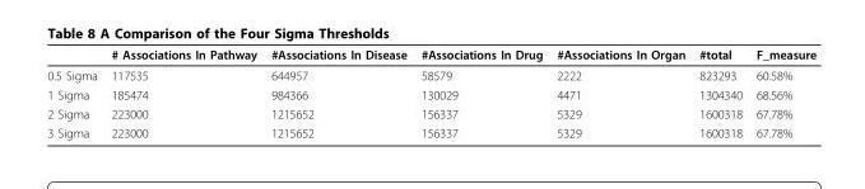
<table><thead><tr><td></td><td># Associations In Pathway</td><td>#Associations In Disease</td><td>#Associations In Drug</td><td>#Associations In Organ</td><td>#total</td><td>F_measure</td></tr></thead><tbody><tr><td>0.5 Sigma</td><td>117535</td><td>644957</td><td>58579</td><td>2222</td><td>823293</td><td>60.58%</td></tr><tr><td>1 Sigma</td><td>185474</td><td>984366</td><td>130029</td><td>4471</td><td>1304340</td><td>68.56%</td></tr><tr><td>2 Sigma</td><td>223000</td><td>1215652</td><td>156337</td><td>5329</td><td>1600318</td><td>67.78%</td></tr><tr><td>3 Sigma</td><td>223000</td><td>1215652</td><td>156337</td><td>5329</td><td>1600318</td><td>67.78%</td></tr></tbody></table>